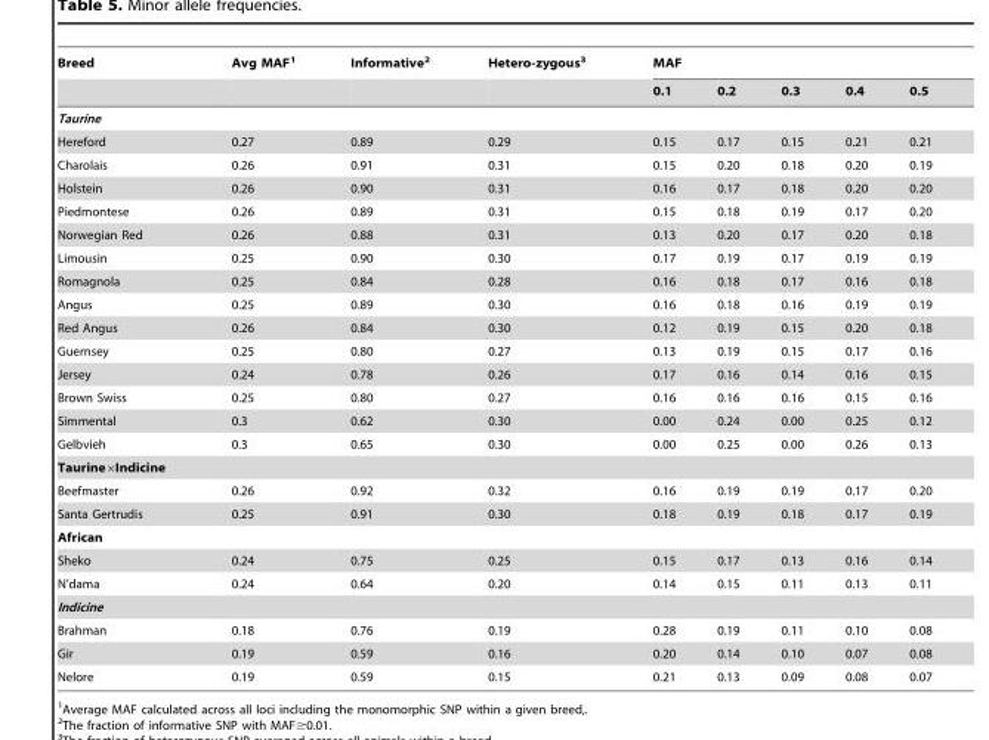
<table><thead><tr><td rowspan="2">Breed</td><td rowspan="2">Avg MAF<sup>1</sup></td><td rowspan="2">Informative<sup>2</sup></td><td rowspan="2">Hetero-zygous<sup>3</sup></td><td colspan="5">MAF</td></tr><tr><td>0.1</td><td>0.2</td><td>0.3</td><td>0.4</td><td>0.5</td></tr></thead><tbody><tr><td colspan="9">Taurine</td></tr><tr><td>Hereford</td><td>0.27</td><td>0.89</td><td>0.29</td><td>0.15</td><td>0.17</td><td>0.15</td><td>0.21</td><td>0.21</td></tr><tr><td>Charolais</td><td>0.26</td><td>0.91</td><td>0.31</td><td>0.15</td><td>0.20</td><td>0.18</td><td>0.20</td><td>0.19</td></tr><tr><td>Holstein</td><td>0.26</td><td>0.90</td><td>0.31</td><td>0.16</td><td>0.17</td><td>0.18</td><td>0.20</td><td>0.20</td></tr><tr><td>Piedmontese</td><td>0.26</td><td>0.89</td><td>0.31</td><td>0.15</td><td>0.18</td><td>0.19</td><td>0.17</td><td>0.20</td></tr><tr><td>Norwegian Red</td><td>0.26</td><td>0.88</td><td>0.31</td><td>0.13</td><td>0.20</td><td>0.17</td><td>0.20</td><td>0.18</td></tr><tr><td>Limousin</td><td>0.25</td><td>0.90</td><td>0.30</td><td>0.17</td><td>0.19</td><td>0.17</td><td>0.19</td><td>0.19</td></tr><tr><td>Romagnola</td><td>0.25</td><td>0.84</td><td>0.28</td><td>0.16</td><td>0.18</td><td>0.17</td><td>0.16</td><td>0.18</td></tr><tr><td>Angus</td><td>0.25</td><td>0.89</td><td>0.30</td><td>0.16</td><td>0.18</td><td>0.16</td><td>0.19</td><td>0.19</td></tr><tr><td>Red Angus</td><td>0.26</td><td>0.84</td><td>0.30</td><td>0.12</td><td>0.19</td><td>0.15</td><td>0.20</td><td>0.18</td></tr><tr><td>Guernsey</td><td>0.25</td><td>0.80</td><td>0.27</td><td>0.13</td><td>0.19</td><td>0.15</td><td>0.17</td><td>0.16</td></tr><tr><td>Jersey</td><td>0.24</td><td>0.78</td><td>0.26</td><td>0.17</td><td>0.16</td><td>0.14</td><td>0.16</td><td>0.15</td></tr><tr><td>Brown Swiss</td><td>0.25</td><td>0.80</td><td>0.27</td><td>0.16</td><td>0.16</td><td>0.16</td><td>0.15</td><td>0.16</td></tr><tr><td>Simmental</td><td>0.3</td><td>0.62</td><td>0.30</td><td>0.00</td><td>0.24</td><td>0.00</td><td>0.25</td><td>0.12</td></tr><tr><td>Gelbvieh</td><td>0.3</td><td>0.65</td><td>0.30</td><td>0.00</td><td>0.25</td><td>0.00</td><td>0.26</td><td>0.13</td></tr><tr><td colspan="9">Taurine×Indicine</td></tr><tr><td>Beefmaster</td><td>0.26</td><td>0.92</td><td>0.32</td><td>0.16</td><td>0.19</td><td>0.19</td><td>0.17</td><td>0.20</td></tr><tr><td>Santa Gertrudis</td><td>0.25</td><td>0.91</td><td>0.30</td><td>0.18</td><td>0.19</td><td>0.18</td><td>0.17</td><td>0.19</td></tr><tr><td colspan="9">African</td></tr><tr><td>Sheko</td><td>0.24</td><td>0.75</td><td>0.25</td><td>0.15</td><td>0.17</td><td>0.13</td><td>0.16</td><td>0.14</td></tr><tr><td>N’dama</td><td>0.24</td><td>0.64</td><td>0.20</td><td>0.14</td><td>0.15</td><td>0.11</td><td>0.13</td><td>0.11</td></tr><tr><td colspan="9">Indicine</td></tr><tr><td>Brahman</td><td>0.18</td><td>0.76</td><td>0.19</td><td>0.28</td><td>0.19</td><td>0.11</td><td>0.10</td><td>0.08</td></tr><tr><td>Gir</td><td>0.19</td><td>0.59</td><td>0.16</td><td>0.20</td><td>0.14</td><td>0.10</td><td>0.07</td><td>0.08</td></tr><tr><td>Nelore</td><td>0.19</td><td>0.59</td><td>0.15</td><td>0.21</td><td>0.13</td><td>0.09</td><td>0.08</td><td>0.07</td></tr></tbody></table>